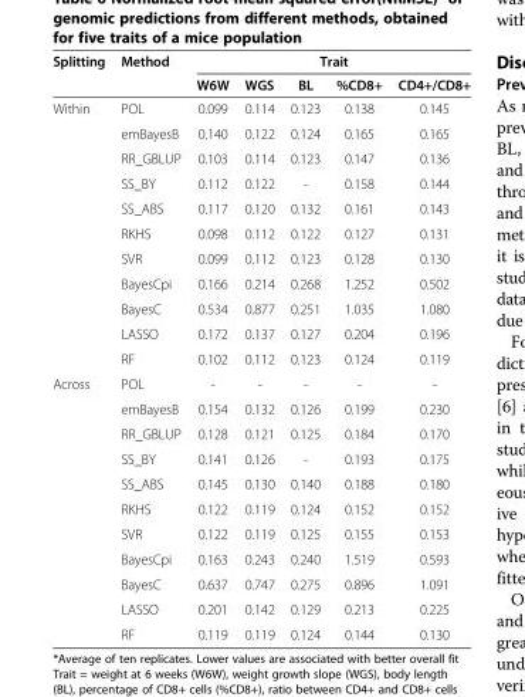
<table><thead><tr><td rowspan="2">Splitting</td><td rowspan="2">Method</td><td colspan="5">Trait</td></tr><tr><td>W6W</td><td>WGS</td><td>BL</td><td>%CD8+</td><td>CD4+/CD8+</td></tr></thead><tbody><tr><td rowspan="11">Within</td><td>POL</td><td>0.099</td><td>0.114</td><td>0.123</td><td>0.138</td><td>0.145</td></tr><tr><td>emBayesB</td><td>0.140</td><td>0.122</td><td>0.124</td><td>0.165</td><td>0.165</td></tr><tr><td>RR_GBLUP</td><td>0.103</td><td>0.114</td><td>0.123</td><td>0.147</td><td>0.136</td></tr><tr><td>SS_BY</td><td>0.112</td><td>0.122</td><td>-</td><td>0.158</td><td>0.144</td></tr><tr><td>SS_ABS</td><td>0.117</td><td>0.120</td><td>0.132</td><td>0.161</td><td>0.143</td></tr><tr><td>RKHS</td><td>0.098</td><td>0.112</td><td>0.122</td><td>0.127</td><td>0.131</td></tr><tr><td>SVR</td><td>0.099</td><td>0.112</td><td>0.123</td><td>0.128</td><td>0.130</td></tr><tr><td>BayesCpi</td><td>0.166</td><td>0.214</td><td>0.268</td><td>1.252</td><td>0.502</td></tr><tr><td>BayesC</td><td>0.534</td><td>0.877</td><td>0.251</td><td>1.035</td><td>1.080</td></tr><tr><td>LASSO</td><td>0.172</td><td>0.137</td><td>0.127</td><td>0.204</td><td>0.196</td></tr><tr><td>RF</td><td>0.102</td><td>0.112</td><td>0.123</td><td>0.124</td><td>0.119</td></tr><tr><td rowspan="11">Across</td><td>POL</td><td>-</td><td>-</td><td>-</td><td>-</td><td>-</td></tr><tr><td>emBayesB</td><td>0.154</td><td>0.132</td><td>0.126</td><td>0.199</td><td>0.230</td></tr><tr><td>RR_GBLUP</td><td>0.128</td><td>0.121</td><td>0.125</td><td>0.184</td><td>0.170</td></tr><tr><td>SS_BY</td><td>0.141</td><td>0.126</td><td>-</td><td>0.193</td><td>0.175</td></tr><tr><td>SS_ABS</td><td>0.145</td><td>0.130</td><td>0.140</td><td>0.188</td><td>0.180</td></tr><tr><td>RKHS</td><td>0.122</td><td>0.119</td><td>0.124</td><td>0.152</td><td>0.152</td></tr><tr><td>SVR</td><td>0.122</td><td>0.119</td><td>0.125</td><td>0.155</td><td>0.153</td></tr><tr><td>BayesCpi</td><td>0.163</td><td>0.243</td><td>0.240</td><td>1.519</td><td>0.593</td></tr><tr><td>BayesC</td><td>0.637</td><td>0.747</td><td>0.275</td><td>0.896</td><td>1.091</td></tr><tr><td>LASSO</td><td>0.201</td><td>0.142</td><td>0.129</td><td>0.213</td><td>0.225</td></tr><tr><td>RF</td><td>0.119</td><td>0.119</td><td>0.124</td><td>0.144</td><td>0.130</td></tr></tbody></table>